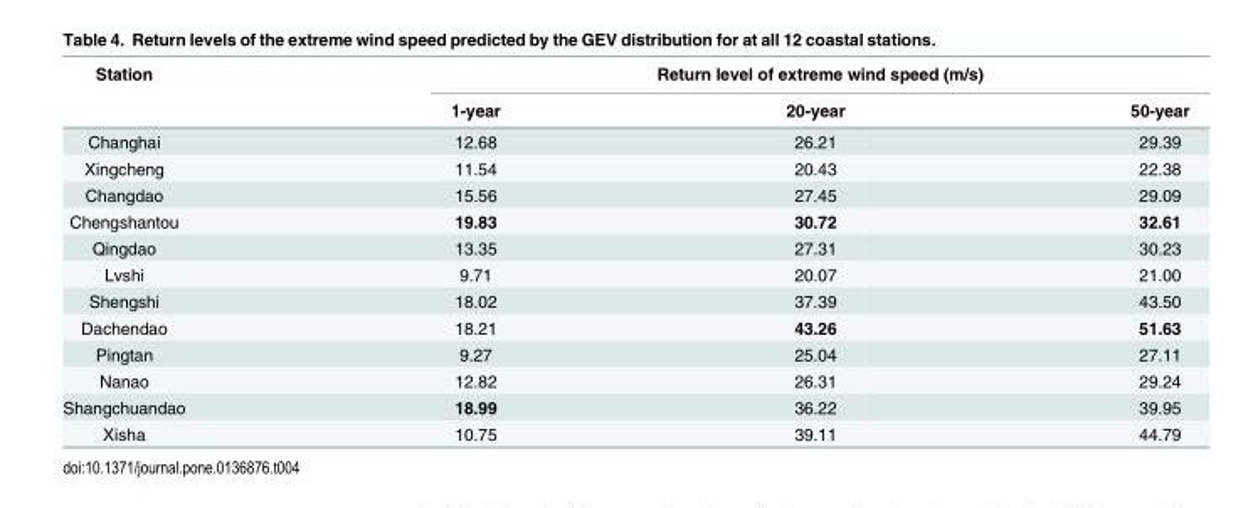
<table><thead><tr><td rowspan="2">Station</td><td colspan="3">Return level of extreme wind speed (m/s)</td></tr><tr><td>1-year</td><td>20-year</td><td>50-year</td></tr></thead><tbody><tr><td>Changhai</td><td>12.68</td><td>26.21</td><td>29.39</td></tr><tr><td>Xingcheng</td><td>11.54</td><td>20.43</td><td>22.38</td></tr><tr><td>Changdao</td><td>15.56</td><td>27.45</td><td>29.09</td></tr><tr><td>Chengshantou</td><td>19.83</td><td>30.72</td><td>32.61</td></tr><tr><td>Qingdao</td><td>13.35</td><td>27.31</td><td>30.23</td></tr><tr><td>Lvshi</td><td>9.71</td><td>20.07</td><td>21.00</td></tr><tr><td>Shengshi</td><td>18.02</td><td>37.39</td><td>43.50</td></tr><tr><td>Dachendao</td><td>18.21</td><td>43.26</td><td>51.63</td></tr><tr><td>Pingtan</td><td>9.27</td><td>25.04</td><td>27.11</td></tr><tr><td>Nanao</td><td>12.82</td><td>26.31</td><td>29.24</td></tr><tr><td>Shangchuandao</td><td>18.99</td><td>36.22</td><td>39.95</td></tr><tr><td>Xisha</td><td>10.75</td><td>39.11</td><td>44.79</td></tr></tbody></table>